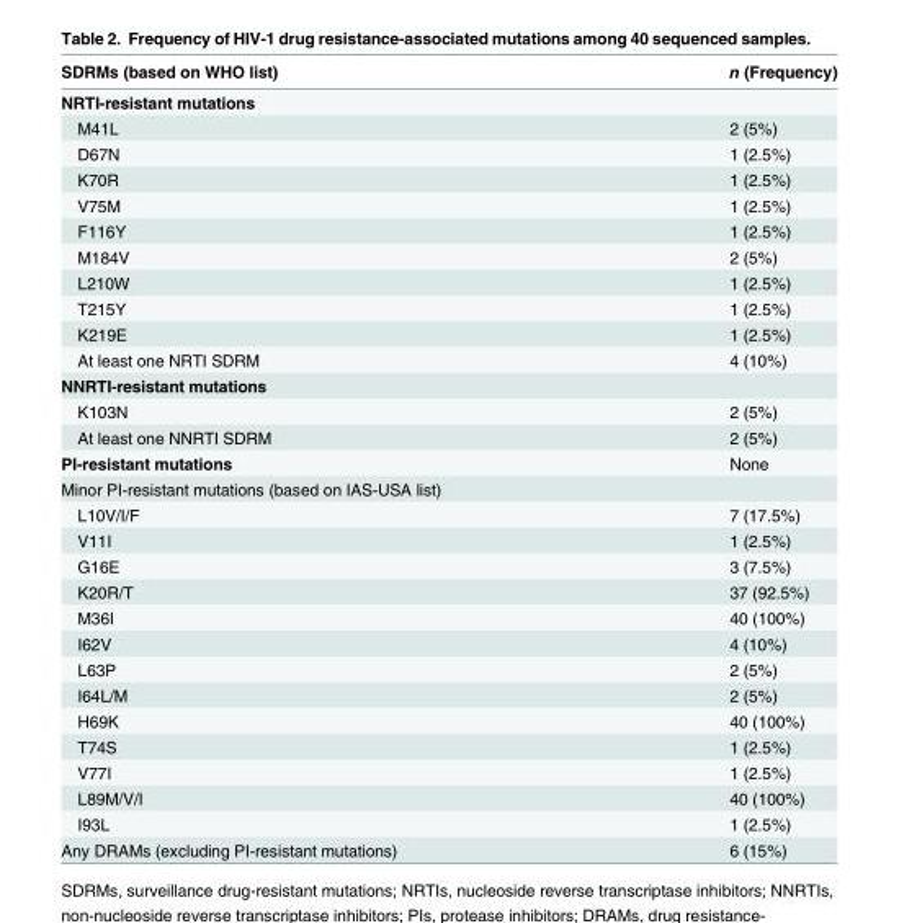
<table><thead><tr><td>SDRMs (based on WHO list)</td><td>n (Frequency)</td></tr></thead><tbody><tr><td colspan="2">NRTI-resistant mutations</td></tr><tr><td>M41L</td><td>2 (5%)</td></tr><tr><td>D67N</td><td>1 (2.5%)</td></tr><tr><td>K70R</td><td>1 (2.5%)</td></tr><tr><td>V75M</td><td>1 (2.5%)</td></tr><tr><td>F116Y</td><td>1 (2.5%)</td></tr><tr><td>M184V</td><td>2 (5%)</td></tr><tr><td>L210W</td><td>1 (2.5%)</td></tr><tr><td>T215Y</td><td>1 (2.5%)</td></tr><tr><td>K219E</td><td>1 (2.5%)</td></tr><tr><td>At least one NRTI SDRM</td><td>4 (10%)</td></tr><tr><td colspan="2">NNRTI-resistant mutations</td></tr><tr><td>K103N</td><td>2 (5%)</td></tr><tr><td>At least one NNRTI SDRM</td><td>2 (5%)</td></tr><tr><td>PI-resistant mutations</td><td>None</td></tr><tr><td colspan="2">Minor PI-resistant mutations (based on IAS-USA list)</td></tr><tr><td>L10V/I/F</td><td>7 (17.5%)</td></tr><tr><td>V11I</td><td>1 (2.5%)</td></tr><tr><td>G16E</td><td>3 (7.5%)</td></tr><tr><td>K20R/T</td><td>37 (92.5%)</td></tr><tr><td>M36I</td><td>40 (100%)</td></tr><tr><td>I62V</td><td>4 (10%)</td></tr><tr><td>L63P</td><td>2 (5%)</td></tr><tr><td>I64L/M</td><td>2 (5%)</td></tr><tr><td>H69K</td><td>40 (100%)</td></tr><tr><td>T74S</td><td>1 (2.5%)</td></tr><tr><td>V77I</td><td>1 (2.5%)</td></tr><tr><td>L89M/V/I</td><td>40 (100%)</td></tr><tr><td>I93L</td><td>1 (2.5%)</td></tr><tr><td>Any DRAMs (excluding PI-resistant mutations)</td><td>6 (15%)</td></tr></tbody></table>